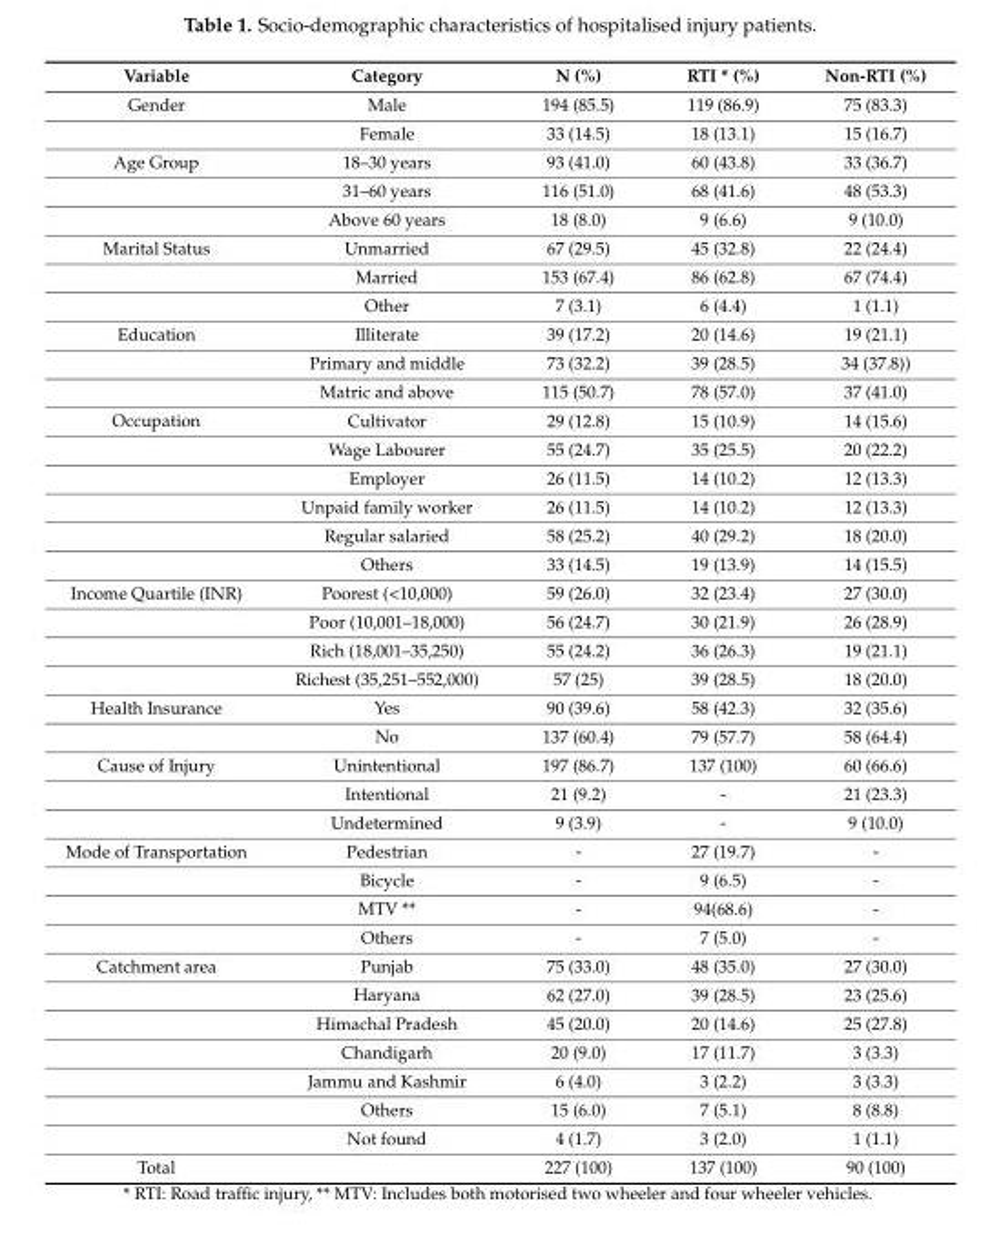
<table><thead><tr><td>Variable</td><td>Category</td><td>N (%)</td><td>RTI * (%)</td><td>Non-RTI (%)</td></tr></thead><tbody><tr><td rowspan="2">Gender</td><td>Male</td><td>194 (85.5)</td><td>119 (86.9)</td><td>75 (83.3)</td></tr><tr><td>Female</td><td>33 (14.5)</td><td>18 (13.1)</td><td>15 (16.7)</td></tr><tr><td rowspan="3">Age Group</td><td>18–30 years</td><td>93 (41.0)</td><td>60 (43.8)</td><td>33 (36.7)</td></tr><tr><td>31–60 years</td><td>116 (51.0)</td><td>68 (41.6)</td><td>48 (53.3)</td></tr><tr><td>Above 60 years</td><td>18 (8.0)</td><td>9 (6.6)</td><td>9 (10.0)</td></tr><tr><td rowspan="3">Marital Status</td><td>Unmarried</td><td>67 (29.5)</td><td>45 (32.8)</td><td>22 (24.4)</td></tr><tr><td>Married</td><td>153 (67.4)</td><td>86 (62.8)</td><td>67 (74.4)</td></tr><tr><td>Other</td><td>7 (3.1)</td><td>6 (4.4)</td><td>1 (1.1)</td></tr><tr><td rowspan="3">Education</td><td>Illiterate</td><td>39 (17.2)</td><td>20 (14.6)</td><td>19 (21.1)</td></tr><tr><td>Primary and middle</td><td>73 (32.2)</td><td>39 (28.5)</td><td>34 (37.8))</td></tr><tr><td>Matric and above</td><td>115 (50.7)</td><td>78 (57.0)</td><td>37 (41.0)</td></tr><tr><td rowspan="6">Occupation</td><td>Cultivator</td><td>29 (12.8)</td><td>15 (10.9)</td><td>14 (15.6)</td></tr><tr><td>Wage Labourer</td><td>55 (24.7)</td><td>35 (25.5)</td><td>20 (22.2)</td></tr><tr><td>Employer</td><td>26 (11.5)</td><td>14 (10.2)</td><td>12 (13.3)</td></tr><tr><td>Unpaid family worker</td><td>26 (11.5)</td><td>14 (10.2)</td><td>12 (13.3)</td></tr><tr><td>Regular salaried</td><td>58 (25.2)</td><td>40 (29.2)</td><td>18 (20.0)</td></tr><tr><td>Others</td><td>33 (14.5)</td><td>19 (13.9)</td><td>14 (15.5)</td></tr><tr><td rowspan="4">Income Quartile (INR)</td><td>Poorest (&lt;10,000)</td><td>59 (26.0)</td><td>32 (23.4)</td><td>27 (30.0)</td></tr><tr><td>Poor (10,001–18,000)</td><td>56 (24.7)</td><td>30 (21.9)</td><td>26 (28.9)</td></tr><tr><td>Rich (18,001–35,250)</td><td>55 (24.2)</td><td>36 (26.3)</td><td>19 (21.1)</td></tr><tr><td>Richest (35,251–552,000)</td><td>57 (25)</td><td>39 (28.5)</td><td>18 (20.0)</td></tr><tr><td rowspan="2">Health Insurance</td><td>Yes</td><td>90 (39.6)</td><td>58 (42.3)</td><td>32 (35.6)</td></tr><tr><td>No</td><td>137 (60.4)</td><td>79 (57.7)</td><td>58 (64.4)</td></tr><tr><td rowspan="3">Cause of Injury</td><td>Unintentional</td><td>197 (86.7)</td><td>137 (100)</td><td>60 (66.6)</td></tr><tr><td>Intentional</td><td>21 (9.2)</td><td>-</td><td>21 (23.3)</td></tr><tr><td>Undetermined</td><td>9 (3.9)</td><td>-</td><td>9 (10.0)</td></tr><tr><td rowspan="4">Mode of Transportation</td><td>Pedestrian</td><td>-</td><td>27 (19.7)</td><td>-</td></tr><tr><td>Bicycle</td><td>-</td><td>9 (6.5)</td><td>-</td></tr><tr><td>MTV **</td><td>-</td><td>94(68.6)</td><td>-</td></tr><tr><td>Others</td><td>-</td><td>7 (5.0)</td><td>-</td></tr><tr><td rowspan="7">Catchment area</td><td>Punjab</td><td>75 (33.0)</td><td>48 (35.0)</td><td>27 (30.0)</td></tr><tr><td>Haryana</td><td>62 (27.0)</td><td>39 (28.5)</td><td>23 (25.6)</td></tr><tr><td>Himachal Pradesh</td><td>45 (20.0)</td><td>20 (14.6)</td><td>25 (27.8)</td></tr><tr><td>Chandigarh</td><td>20 (9.0)</td><td>17 (11.7)</td><td>3 (3.3)</td></tr><tr><td>Jammu and Kashmir</td><td>6 (4.0)</td><td>3 (2.2)</td><td>3 (3.3)</td></tr><tr><td>Others</td><td>15 (6.0)</td><td>7 (5.1)</td><td>8 (8.8)</td></tr><tr><td>Not found</td><td>4 (1.7)</td><td>3 (2.0)</td><td>1 (1.1)</td></tr><tr><td>Total</td><td></td><td>227 (100)</td><td>137 (100)</td><td>90 (100)</td></tr></tbody></table>